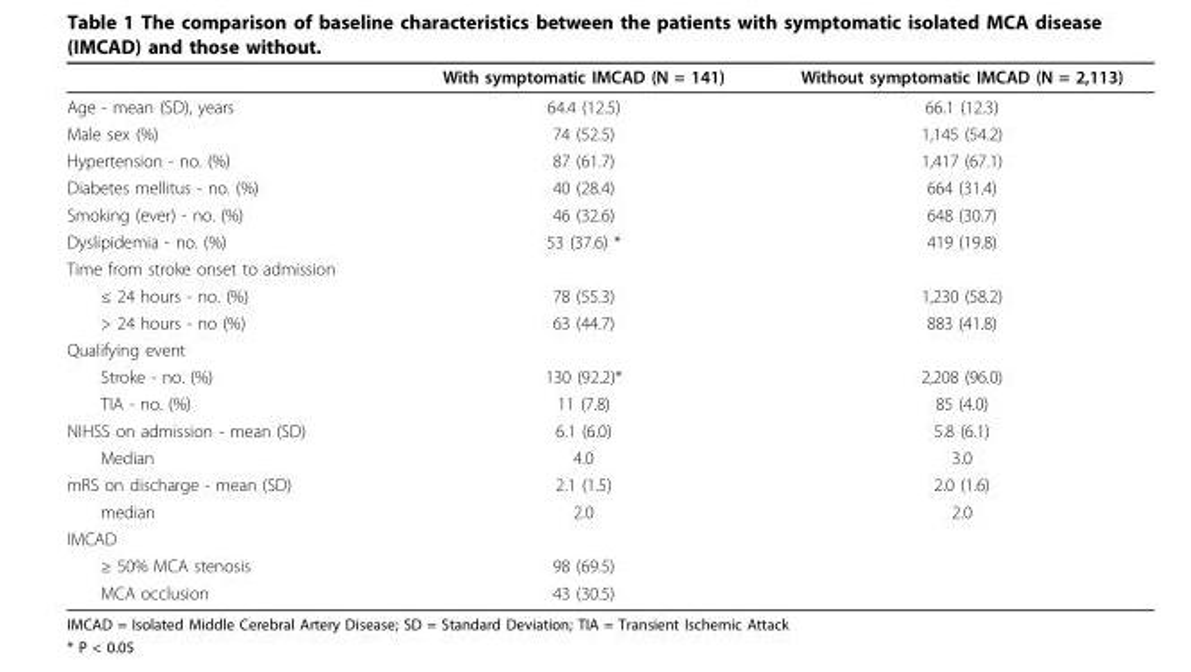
<table><thead><tr><td></td><td>With symptomatic IMCAD (N = 141)</td><td>Without symptomatic IMCAD (N = 2,113)</td></tr></thead><tbody><tr><td>Age - mean (SD), years</td><td>64.4 (12.5)</td><td>66.1 (12.3)</td></tr><tr><td>Male sex (%)</td><td>74 (52.5)</td><td>1,145 (54.2)</td></tr><tr><td>Hypertension - no. (%)</td><td>87 (61.7)</td><td>1,417 (67.1)</td></tr><tr><td>Diabetes mellitus - no. (%)</td><td>40 (28.4)</td><td>664 (31.4)</td></tr><tr><td>Smoking (ever) - no. (%)</td><td>46 (32.6)</td><td>648 (30.7)</td></tr><tr><td>Dyslipidemia - no. (%)</td><td>53 (37.6) *</td><td>419 (19.8)</td></tr><tr><td colspan="3">Time from stroke onset to admission</td></tr><tr><td>≤ 24 hours - no. (%)</td><td>78 (55.3)</td><td>1,230 (58.2)</td></tr><tr><td>&gt; 24 hours - no (%)</td><td>63 (44.7)</td><td>883 (41.8)</td></tr><tr><td colspan="3">Qualifying event</td></tr><tr><td>Stroke - no. (%)</td><td>130 (92.2)*</td><td>2,208 (96.0)</td></tr><tr><td>TIA - no. (%)</td><td>11 (7.8)</td><td>85 (4.0)</td></tr><tr><td>NIHSS on admission - mean (SD)</td><td>6.1 (6.0)</td><td>5.8 (6.1)</td></tr><tr><td>Median</td><td>4.0</td><td>3.0</td></tr><tr><td>mRS on discharge - mean (SD)</td><td>2.1 (1.5)</td><td>2.0 (1.6)</td></tr><tr><td>median</td><td>2.0</td><td>2.0</td></tr><tr><td colspan="3">IMCAD</td></tr><tr><td>≥ 50% MCA stenosis</td><td>98 (69.5)</td><td></td></tr><tr><td>MCA occlusion</td><td>43 (30.5)</td><td></td></tr></tbody></table>